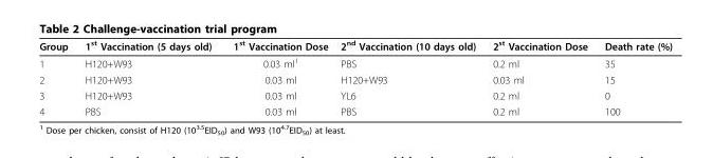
<table><thead><tr><td>Group</td><td>1<sup>st</sup> Vaccination (5 days old)</td><td>1<sup>st</sup> Vaccination Dose</td><td>2<sup>nd</sup> Vaccination (10 days old)</td><td>2<sup>st</sup> Vaccination Dose</td><td>Death rate (%)</td></tr></thead><tbody><tr><td>1</td><td>H120+W93</td><td>0.03 ml<sup>1</sup></td><td>PBS</td><td>0.2 ml</td><td>35</td></tr><tr><td>2</td><td>H120+W93</td><td>0.03 ml</td><td>H120+W93</td><td>0.03 ml</td><td>15</td></tr><tr><td>3</td><td>H120+W93</td><td>0.03 ml</td><td>YL6</td><td>0.2 ml</td><td>0</td></tr><tr><td>4</td><td>PBS</td><td>0.03 ml</td><td>PBS</td><td>0.2 ml</td><td>100</td></tr></tbody></table>